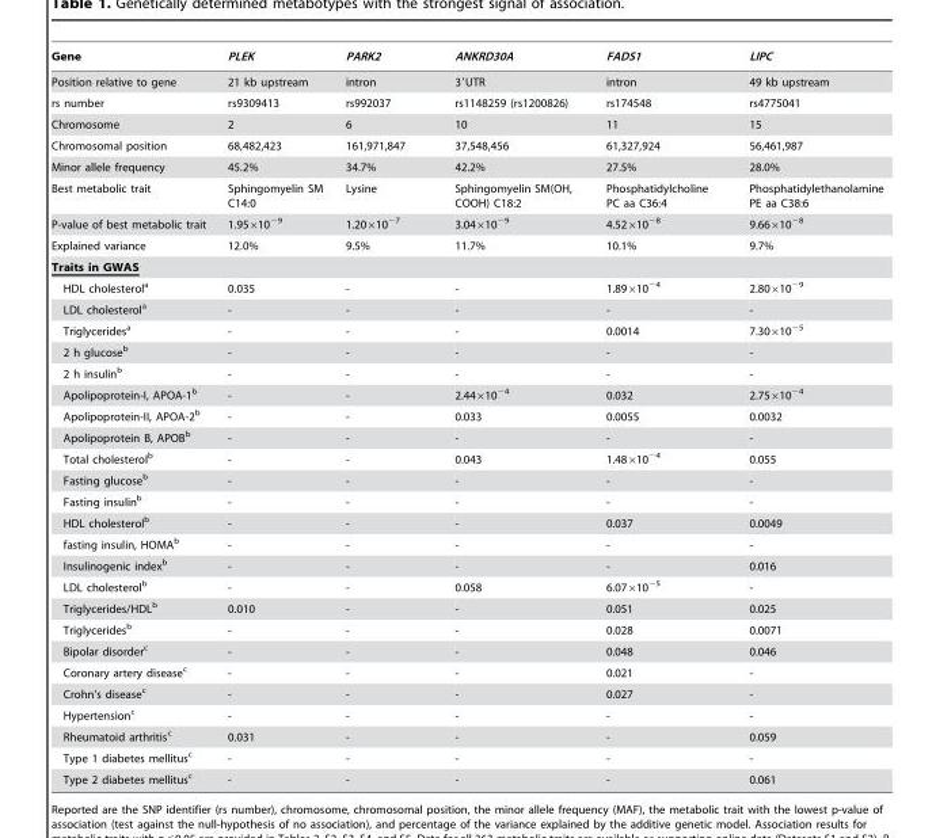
<table><thead><tr><td>Gene</td><td>PLEK</td><td>PARK2</td><td>ANKRD30A</td><td>FADS1</td><td>LIPC</td></tr></thead><tbody><tr><td>Position relative to gene</td><td>21 kb upstream</td><td>intron</td><td>3′UTR</td><td>intron</td><td>49 kb upstream</td></tr><tr><td>rs number</td><td>rs9309413</td><td>rs992037</td><td>rs1148259 (rs1200826)</td><td>rs174548</td><td>rs4775041</td></tr><tr><td>Chromosome</td><td>2</td><td>6</td><td>10</td><td>11</td><td>15</td></tr><tr><td>Chromosomal position</td><td>68,482,423</td><td>161,971,847</td><td>37,548,456</td><td>61,327,924</td><td>56,461,987</td></tr><tr><td>Minor allele frequency</td><td>45.2%</td><td>34.7%</td><td>42.2%</td><td>27.5%</td><td>28.0%</td></tr><tr><td>Best metabolic trait</td><td>Sphingomyelin SM C14:0</td><td>Lysine</td><td>Sphingomyelin SM(OH, COOH) C18:2</td><td>Phosphatidylcholine PC aa C36:4</td><td>Phosphatidylethanolamine PE aa C38:6</td></tr><tr><td>P-value of best metabolic trait</td><td>1.95×10<sup>−9</sup></td><td>1.20×10<sup>−7</sup></td><td>3.04×10<sup>−9</sup></td><td>4.52×10<sup>−8</sup></td><td>9.66×10<sup>−8</sup></td></tr><tr><td>Explained variance</td><td>12.0%</td><td>9.5%</td><td>11.7%</td><td>10.1%</td><td>9.7%</td></tr><tr><td colspan="6">Traits in GWAS</td></tr><tr><td>HDL cholesterol<sup>a</sup></td><td>0.035</td><td>-</td><td>-</td><td>1.89×10<sup>−4</sup></td><td>2.80×10<sup>−9</sup></td></tr><tr><td>LDL cholesterol<sup>a</sup></td><td>-</td><td>-</td><td>-</td><td>-</td><td>-</td></tr><tr><td>Triglycerides<sup>a</sup></td><td>-</td><td>-</td><td>-</td><td>0.0014</td><td>7.30×10<sup>−5</sup></td></tr><tr><td>2 h glucose<sup>b</sup></td><td>-</td><td>-</td><td>-</td><td>-</td><td>-</td></tr><tr><td>2 h insulin<sup>b</sup></td><td>-</td><td>-</td><td>-</td><td>-</td><td>-</td></tr><tr><td>Apolipoprotein-I, APOA-1<sup>b</sup></td><td>-</td><td>-</td><td>2.44×10<sup>−4</sup></td><td>0.032</td><td>2.75×10<sup>−4</sup></td></tr><tr><td>Apolipoprotein-II, APOA-2<sup>b</sup></td><td>-</td><td>-</td><td>0.033</td><td>0.0055</td><td>0.0032</td></tr><tr><td>Apolipoprotein B, APOB<sup>b</sup></td><td>-</td><td>-</td><td>-</td><td>-</td><td>-</td></tr><tr><td>Total cholesterol<sup>b</sup></td><td>-</td><td>-</td><td>0.043</td><td>1.48×10<sup>−4</sup></td><td>0.055</td></tr><tr><td>Fasting glucose<sup>b</sup></td><td>-</td><td>-</td><td>-</td><td>-</td><td>-</td></tr><tr><td>Fasting insulin<sup>b</sup></td><td>-</td><td>-</td><td>-</td><td>-</td><td>-</td></tr><tr><td>HDL cholesterol<sup>b</sup></td><td>-</td><td>-</td><td>-</td><td>0.037</td><td>0.0049</td></tr><tr><td>fasting insulin, HOMA<sup>b</sup></td><td>-</td><td>-</td><td>-</td><td>-</td><td>-</td></tr><tr><td>Insulinogenic index<sup>b</sup></td><td>-</td><td>-</td><td>-</td><td>-</td><td>0.016</td></tr><tr><td>LDL cholesterol<sup>b</sup></td><td>-</td><td>-</td><td>0.058</td><td>6.07×10<sup>−5</sup></td><td>-</td></tr><tr><td>Triglycerides/HDL<sup>b</sup></td><td>0.010</td><td>-</td><td>-</td><td>0.051</td><td>0.025</td></tr><tr><td>Triglycerides<sup>b</sup></td><td>-</td><td>-</td><td>-</td><td>0.028</td><td>0.0071</td></tr><tr><td>Bipolar disorder<sup>c</sup></td><td>-</td><td>-</td><td>-</td><td>0.048</td><td>0.046</td></tr><tr><td>Coronary artery disease<sup>c</sup></td><td>-</td><td>-</td><td>-</td><td>0.021</td><td>-</td></tr><tr><td>Crohn’s disease<sup>c</sup></td><td>-</td><td>-</td><td>-</td><td>0.027</td><td>-</td></tr><tr><td>Hypertension<sup>c</sup></td><td>-</td><td>-</td><td>-</td><td>-</td><td>-</td></tr><tr><td>Rheumatoid arthritis<sup>c</sup></td><td>0.031</td><td>-</td><td>-</td><td>-</td><td>0.059</td></tr><tr><td>Type 1 diabetes mellitus<sup>c</sup></td><td>-</td><td>-</td><td>-</td><td>-</td><td>-</td></tr><tr><td>Type 2 diabetes mellitus<sup>c</sup></td><td>-</td><td>-</td><td>-</td><td>-</td><td>0.061</td></tr></tbody></table>